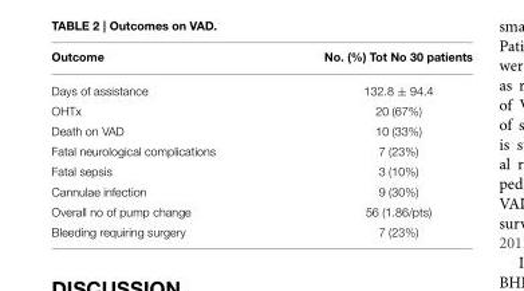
<table><thead><tr><td>Outcome</td><td>No. (%) Tot No 30 patients</td></tr></thead><tbody><tr><td>Days of assistance</td><td>132.8 ± 94.4</td></tr><tr><td>OHTx</td><td>20 (67%)</td></tr><tr><td>Death on VAD</td><td>10 (33%)</td></tr><tr><td>Fatal neurological complications</td><td>7 (23%)</td></tr><tr><td>Fatal sepsis</td><td>3 (10%)</td></tr><tr><td>Cannulae infection</td><td>9 (30%)</td></tr><tr><td>Overall no of pump change</td><td>56 (1.86/pts)</td></tr><tr><td>Bleeding requiring surgery</td><td>7 (23%)</td></tr></tbody></table>